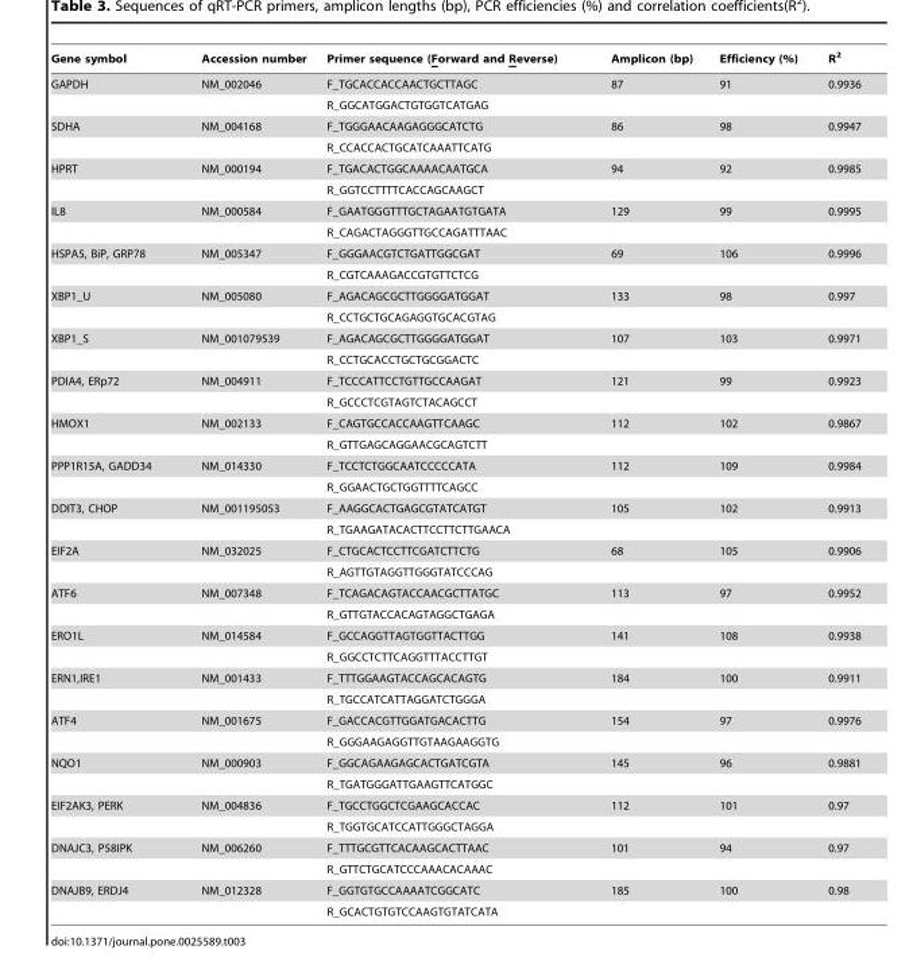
<table><thead><tr><td>Gene symbol</td><td>Accession number</td><td>Primer sequence (Forward and Reverse)</td><td>Amplicon (bp)</td><td>Efficiency (%)</td><td>R<sup>2</sup></td></tr></thead><tbody><tr><td rowspan="2">GAPDH</td><td>NM_002046</td><td>F_TGCACCACCAACTGCTTAGC</td><td>87</td><td>91</td><td>0.9936</td></tr><tr><td></td><td>R_GGCATGGACTGTGGTCATGAG</td><td></td><td></td><td></td></tr><tr><td rowspan="2">SDHA</td><td>NM_004168</td><td>F_TGGGAACAAGAGGGCATCTG</td><td>86</td><td>98</td><td>0.9947</td></tr><tr><td></td><td>R_CCACCACTGCATCAAATTCATG</td><td></td><td></td><td></td></tr><tr><td rowspan="2">HPRT</td><td>NM_000194</td><td>F_TGACACTGGCAAAACAATGCA</td><td>94</td><td>92</td><td>0.9985</td></tr><tr><td></td><td>R_GGTCCTTTTCACCAGCAAGCT</td><td></td><td></td><td></td></tr><tr><td rowspan="2">IL8</td><td>NM_000584</td><td>F_GAATGGGTTTGCTAGAATGTGATA</td><td>129</td><td>99</td><td>0.9995</td></tr><tr><td></td><td>R_CAGACTAGGGTTGCCAGATTTAAC</td><td></td><td></td><td></td></tr><tr><td rowspan="2">HSPA5, BiP, GRP78</td><td>NM_005347</td><td>F_GGGAACGTCTGATTGGCGAT</td><td>69</td><td>106</td><td>0.9996</td></tr><tr><td></td><td>R_CGTCAAAGACCGTGTTCTCG</td><td></td><td></td><td></td></tr><tr><td rowspan="2">XBP1_U</td><td>NM_005080</td><td>F_AGACAGCGCTTGGGGATGGAT</td><td>133</td><td>98</td><td>0.997</td></tr><tr><td></td><td>R_CCTGCTGCAGAGGTGCACGTAG</td><td></td><td></td><td></td></tr><tr><td rowspan="2">XBP1_S</td><td>NM_001079539</td><td>F_AGACAGCGCTTGGGGATGGAT</td><td>107</td><td>103</td><td>0.9971</td></tr><tr><td></td><td>R_CCTGCACCTGCTGCGGACTC</td><td></td><td></td><td></td></tr><tr><td rowspan="2">PDIA4, ERp72</td><td>NM_004911</td><td>F_TCCCATTCCTGTTGCCAAGAT</td><td>121</td><td>99</td><td>0.9923</td></tr><tr><td></td><td>R_GCCCTCGTAGTCTACAGCCT</td><td></td><td></td><td></td></tr><tr><td rowspan="2">HMOX1</td><td>NM_002133</td><td>F_CAGTGCCACCAAGTTCAAGC</td><td>112</td><td>102</td><td>0.9867</td></tr><tr><td></td><td>R_GTTGAGCAGGAACGCAGTCTT</td><td></td><td></td><td></td></tr><tr><td rowspan="2">PPP1R15A, GADD34</td><td>NM_014330</td><td>F_TCCTCTGGCAATCCCCCATA</td><td>112</td><td>109</td><td>0.9984</td></tr><tr><td></td><td>R_GGAACTGCTGGTTTTCAGCC</td><td></td><td></td><td></td></tr><tr><td rowspan="2">DDIT3, CHOP</td><td>NM_001195053</td><td>F_AAGGCACTGAGCGTATCATGT</td><td>105</td><td>102</td><td>0.9913</td></tr><tr><td></td><td>R_TGAAGATACACTTCCTTCTTGAACA</td><td></td><td></td><td></td></tr><tr><td rowspan="2">EIF2A</td><td>NM_032025</td><td>F_CTGCACTCCTTCGATCTTCTG</td><td>68</td><td>105</td><td>0.9906</td></tr><tr><td></td><td>R_AGTTGTAGGTTGGGTATCCCAG</td><td></td><td></td><td></td></tr><tr><td rowspan="2">ATF6</td><td>NM_007348</td><td>F_TCAGACAGTACCAACGCTTATGC</td><td>113</td><td>97</td><td>0.9952</td></tr><tr><td></td><td>R_GTTGTACCACAGTAGGCTGAGA</td><td></td><td></td><td></td></tr><tr><td rowspan="2">ERO1L</td><td>NM_014584</td><td>F_GCCAGGTTAGTGGTTACTTGG</td><td>141</td><td>108</td><td>0.9938</td></tr><tr><td></td><td>R_GGCCTCTTCAGGTTTACCTTGT</td><td></td><td></td><td></td></tr><tr><td rowspan="2">ERN1,IRE1</td><td>NM_001433</td><td>F_TTTGGAAGTACCAGCACAGTG</td><td>184</td><td>100</td><td>0.9911</td></tr><tr><td></td><td>R_TGCCATCATTAGGATCTGGGA</td><td></td><td></td><td></td></tr><tr><td rowspan="2">ATF4</td><td>NM_001675</td><td>F_GACCACGTTGGATGACACTTG</td><td>154</td><td>97</td><td>0.9976</td></tr><tr><td></td><td>R_GGGAAGAGGTTGTAAGAAGGTG</td><td></td><td></td><td></td></tr><tr><td rowspan="2">NQO1</td><td>NM_000903</td><td>F_GGCAGAAGAGCACTGATCGTA</td><td>145</td><td>96</td><td>0.9881</td></tr><tr><td></td><td>R_TGATGGGATTGAAGTTCATGGC</td><td></td><td></td><td></td></tr><tr><td rowspan="2">EIF2AK3, PERK</td><td>NM_004836</td><td>F_TGCCTGGCTCGAAGCACCAC</td><td>112</td><td>101</td><td>0.97</td></tr><tr><td></td><td>R_TGGTGCATCCATTGGGCTAGGA</td><td></td><td></td><td></td></tr><tr><td rowspan="2">DNAJC3, P58IPK</td><td>NM_006260</td><td>F_TTTGCGTTCACAAGCACTTAAC</td><td>101</td><td>94</td><td>0.97</td></tr><tr><td></td><td>R_GTTCTGCATCCCAAACACAAAC</td><td></td><td></td><td></td></tr><tr><td rowspan="2">DNAJB9, ERDJ4</td><td>NM_012328</td><td>F_GGTGTGCCAAAATCGGCATC</td><td>185</td><td>100</td><td>0.98</td></tr><tr><td></td><td>R_GCACTGTGTCCAAGTGTATCATA</td><td></td><td></td><td></td></tr></tbody></table>